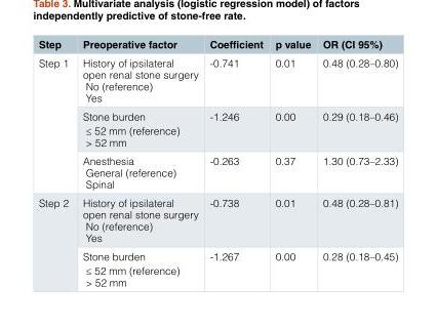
<table><thead><tr><td>Step</td><td>Preoperative factor</td><td>Coefficient</td><td>p value</td><td>OR (CI 95%)</td></tr></thead><tbody><tr><td rowspan="3">Step 1</td><td>History of ipsilateral open renal stone surgery No (reference) Yes</td><td>-0.741</td><td>0.01</td><td>0.48 (0.28–0.80)</td></tr><tr><td>Stone burden ≤ 52 mm (reference) &gt; 52 mm</td><td>-1.246</td><td>0.00</td><td>0.29 (0.18–0.46)</td></tr><tr><td>Anesthesia General (reference) Spinal</td><td>-0.263</td><td>0.37</td><td>1.30 (0.73–2.33)</td></tr><tr><td rowspan="2">Step 2</td><td>History of ipsilateral open renal stone surgery No (reference) Yes</td><td>-0.738</td><td>0.01</td><td>0.48 (0.28–0.81)</td></tr><tr><td>Stone burden ≤ 52 mm (reference) &gt; 52 mm</td><td>-1.267</td><td>0.00</td><td>0.28 (0.18–0.45)</td></tr></tbody></table>